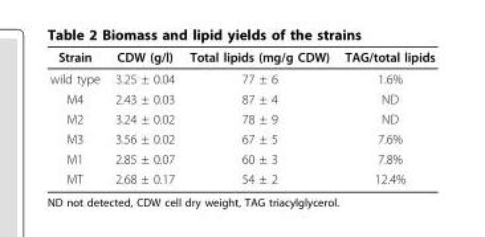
<table><thead><tr><td>Strain</td><td>CDW (g/l)</td><td>Total lipids (mg/g CDW)</td><td>TAG/total lipids</td></tr></thead><tbody><tr><td>wild type</td><td>3.25 ± 0.04</td><td>77 ± 6</td><td>1.6%</td></tr><tr><td>M4</td><td>2.43 ± 0.03</td><td>87 ± 4</td><td>ND</td></tr><tr><td>M2</td><td>3.24 ± 0.02</td><td>78 ± 9</td><td>ND</td></tr><tr><td>M3</td><td>3.56 ± 0.02</td><td>67 ± 5</td><td>7.6%</td></tr><tr><td>M1</td><td>2.85 ± 0.07</td><td>60 ± 3</td><td>7.8%</td></tr><tr><td>MT</td><td>2.68 ± 0.17</td><td>54 ± 2</td><td>12.4%</td></tr></tbody></table>